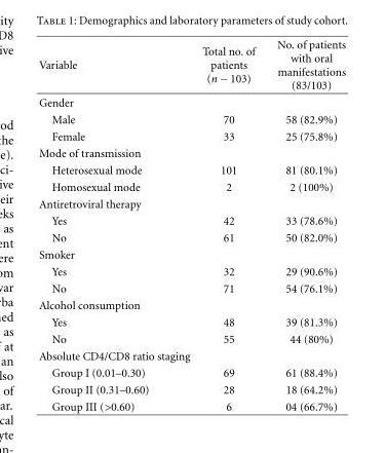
<table><thead><tr><td>Variable</td><td>Total no. of patients (n − 103)</td><td>No. of patients with oral manifestations (83/103)</td></tr></thead><tbody><tr><td colspan="3">Gender</td></tr><tr><td>Male</td><td>70</td><td>58 (82.9%)</td></tr><tr><td>Female</td><td>33</td><td>25 (75.8%)</td></tr><tr><td colspan="3">Mode of transmission</td></tr><tr><td>Heterosexual mode</td><td>101</td><td>81 (80.1%)</td></tr><tr><td>Homosexual mode</td><td>2</td><td>2 (100%)</td></tr><tr><td colspan="3">Antiretroviral therapy</td></tr><tr><td>Yes</td><td>42</td><td>33 (78.6%)</td></tr><tr><td>No</td><td>61</td><td>50 (82.0%)</td></tr><tr><td colspan="3">Smoker</td></tr><tr><td>Yes</td><td>32</td><td>29 (90.6%)</td></tr><tr><td>No</td><td>71</td><td>54 (76.1%)</td></tr><tr><td colspan="3">Alcohol consumption</td></tr><tr><td>Yes</td><td>48</td><td>39 (81.3%)</td></tr><tr><td>No</td><td>55</td><td>44 (80%)</td></tr><tr><td colspan="3">Absolute CD4/CD8 ratio staging</td></tr><tr><td>Group I (0.01–0.30)</td><td>69</td><td>61 (88.4%)</td></tr><tr><td>Group II (0.31–0.60)</td><td>28</td><td>18 (64.2%)</td></tr><tr><td>Group III (&gt;0.60)</td><td>6</td><td>04 (66.7%)</td></tr></tbody></table>